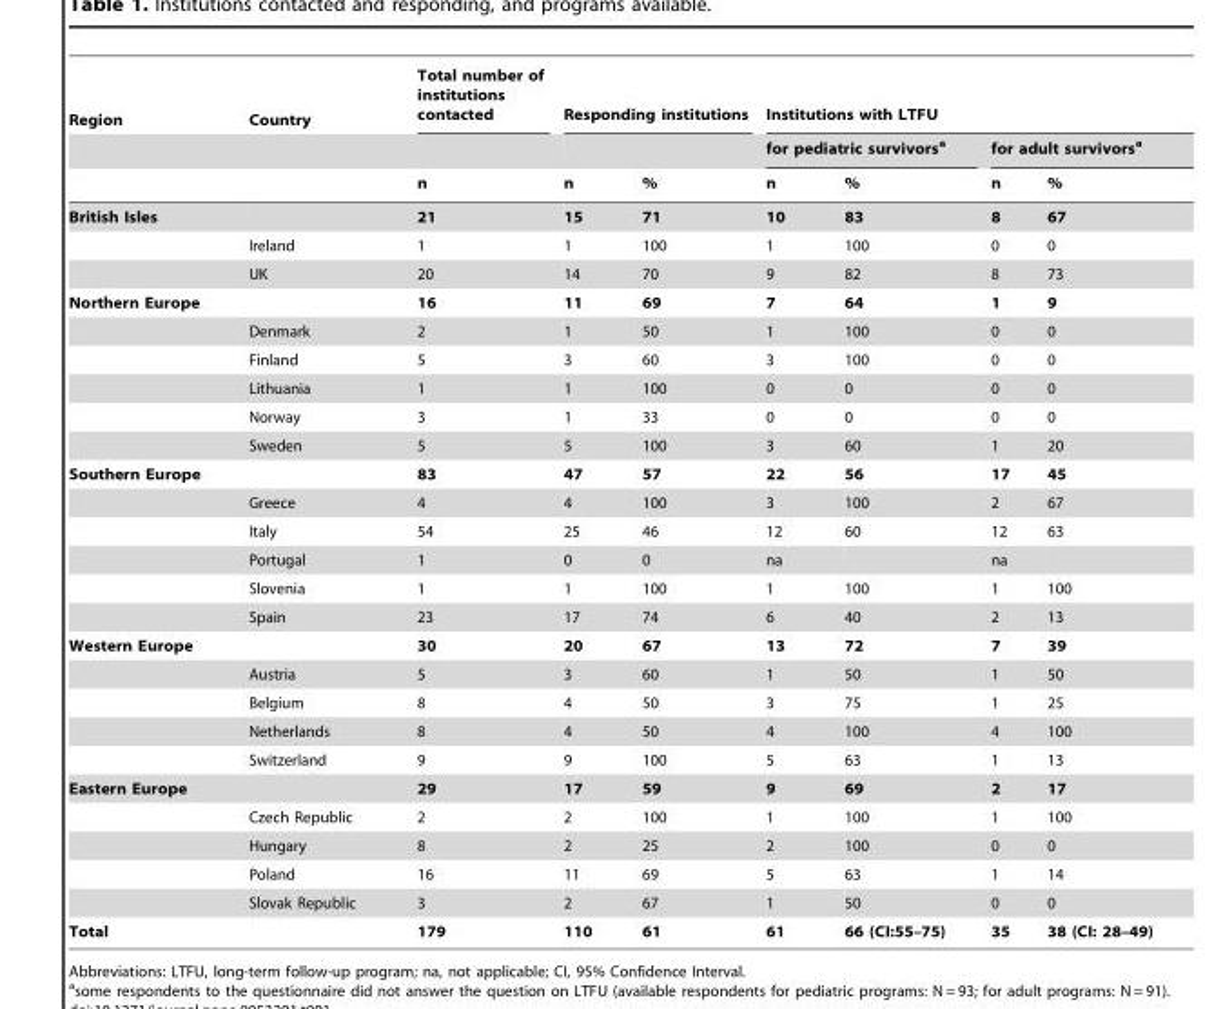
<table><thead><tr><td rowspan="3">Region</td><td rowspan="3">Country</td><td rowspan="3">Total number of institutions contacted n</td><td colspan="2">Responding institutions</td><td colspan="4">Institutions with LTFU</td></tr><tr><td rowspan="2">n</td><td rowspan="2">%</td><td colspan="2">for pediatric survivors<sup>a</sup></td><td colspan="2">for adult survivors<sup>a</sup></td></tr><tr><td>n</td><td>%</td><td>n</td><td>%</td></tr></thead><tbody><tr><td rowspan="3">British Isles</td><td></td><td>21</td><td>15</td><td>71</td><td>10</td><td>83</td><td>8</td><td>67</td></tr><tr><td>Ireland</td><td>1</td><td>1</td><td>100</td><td>1</td><td>100</td><td>0</td><td>0</td></tr><tr><td>UK</td><td>20</td><td>14</td><td>70</td><td>9</td><td>82</td><td>8</td><td>73</td></tr><tr><td rowspan="6">Northern Europe</td><td></td><td>16</td><td>11</td><td>69</td><td>7</td><td>64</td><td>1</td><td>9</td></tr><tr><td>Denmark</td><td>2</td><td>1</td><td>50</td><td>1</td><td>100</td><td>0</td><td>0</td></tr><tr><td>Finland</td><td>5</td><td>3</td><td>60</td><td>3</td><td>100</td><td>0</td><td>0</td></tr><tr><td>Lithuania</td><td>1</td><td>1</td><td>100</td><td>0</td><td>0</td><td>0</td><td>0</td></tr><tr><td>Norway</td><td>3</td><td>1</td><td>33</td><td>0</td><td>0</td><td>0</td><td>0</td></tr><tr><td>Sweden</td><td>5</td><td>5</td><td>100</td><td>3</td><td>60</td><td>1</td><td>20</td></tr><tr><td rowspan="6">Southern Europe</td><td></td><td>83</td><td>47</td><td>57</td><td>22</td><td>56</td><td>17</td><td>45</td></tr><tr><td>Greece</td><td>4</td><td>4</td><td>100</td><td>3</td><td>100</td><td>2</td><td>67</td></tr><tr><td>Italy</td><td>54</td><td>25</td><td>46</td><td>12</td><td>60</td><td>12</td><td>63</td></tr><tr><td>Portugal</td><td>1</td><td>0</td><td>0</td><td>na</td><td></td><td>na</td><td></td></tr><tr><td>Slovenia</td><td>1</td><td>1</td><td>100</td><td>1</td><td>100</td><td>1</td><td>100</td></tr><tr><td>Spain</td><td>23</td><td>17</td><td>74</td><td>6</td><td>40</td><td>2</td><td>13</td></tr><tr><td rowspan="5">Western Europe</td><td></td><td>30</td><td>20</td><td>67</td><td>13</td><td>72</td><td>7</td><td>39</td></tr><tr><td>Austria</td><td>5</td><td>3</td><td>60</td><td>1</td><td>50</td><td>1</td><td>50</td></tr><tr><td>Belgium</td><td>8</td><td>4</td><td>50</td><td>3</td><td>75</td><td>1</td><td>25</td></tr><tr><td>Netherlands</td><td>8</td><td>4</td><td>50</td><td>4</td><td>100</td><td>4</td><td>100</td></tr><tr><td>Switzerland</td><td>9</td><td>9</td><td>100</td><td>5</td><td>63</td><td>1</td><td>13</td></tr><tr><td rowspan="5">Eastern Europe</td><td></td><td>29</td><td>17</td><td>59</td><td>9</td><td>69</td><td>2</td><td>17</td></tr><tr><td>Czech Republic</td><td>2</td><td>2</td><td>100</td><td>1</td><td>100</td><td>1</td><td>100</td></tr><tr><td>Hungary</td><td>8</td><td>2</td><td>25</td><td>2</td><td>100</td><td>0</td><td>0</td></tr><tr><td>Poland</td><td>16</td><td>11</td><td>69</td><td>5</td><td>63</td><td>1</td><td>14</td></tr><tr><td>Slovak Republic</td><td>3</td><td>2</td><td>67</td><td>1</td><td>50</td><td>0</td><td>0</td></tr><tr><td>Total</td><td></td><td>179</td><td>110</td><td>61</td><td>61</td><td>66 (CI:55–75)</td><td>35</td><td>38 (CI: 28–49)</td></tr></tbody></table>